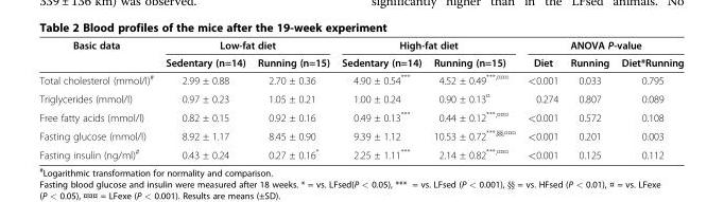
<table><thead><tr><td rowspan="2">Basic data</td><td colspan="2">Low-fat diet</td><td colspan="2">High-fat diet</td><td colspan="3">ANOVA P-value</td></tr><tr><td>Sedentary (n=14)</td><td>Running (n=15)</td><td>Sedentary (n=14)</td><td>Running (n=15)</td><td>Diet</td><td>Running</td><td>Diet*Running</td></tr></thead><tbody><tr><td>Total cholesterol (mmol/l)<sup>#</sup></td><td>2.99 ± 0.88</td><td>2.70 ± 0.36</td><td>4.90 ± 0.54***</td><td>4.52 ± 0.49<sup>***,¤¤¤</sup></td><td>&lt;0.001</td><td>0.033</td><td>0.795</td></tr><tr><td>Triglycerides (mmol/l)</td><td>0.97 ± 0.23</td><td>1.05 ± 0.21</td><td>1.00 ± 0.24</td><td>0.90 ± 0.13<sup>¤</sup></td><td>0.274</td><td>0.807</td><td>0.089</td></tr><tr><td>Free fatty acids (mmol/l)</td><td>0.82 ± 0.15</td><td>0.92 ± 0.16</td><td>0.49 ± 0.13***</td><td>0.44 ± 0.12<sup>***,¤¤¤</sup></td><td>&lt;0.001</td><td>0.572</td><td>0.108</td></tr><tr><td>Fasting glucose (mmol/l)</td><td>8.92 ± 1.17</td><td>8.45 ± 0.90</td><td>9.39 ± 1.12</td><td>10.53 ± 0.72<sup>***,§§,¤¤¤</sup></td><td>&lt;0.001</td><td>0.201</td><td>0.003</td></tr><tr><td>Fasting insulin (ng/ml)<sup>#</sup></td><td>0.43 ± 0.24</td><td>0.27 ± 0.16*</td><td>2.25 ± 1.11***</td><td>2.14 ± 0.82<sup>***,¤¤¤</sup></td><td>&lt;0.001</td><td>0.125</td><td>0.112</td></tr></tbody></table>